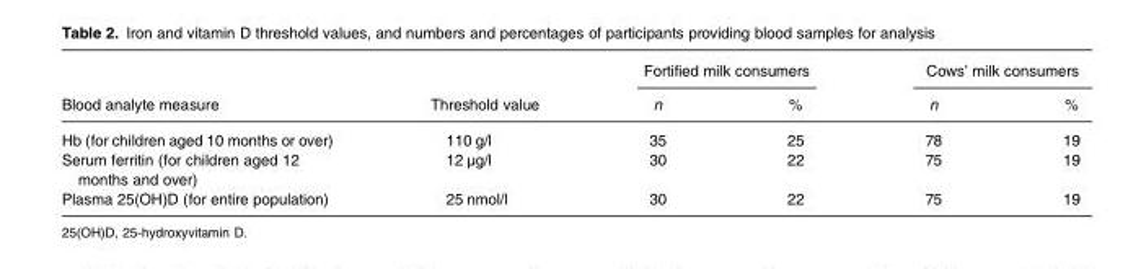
<table><thead><tr><td rowspan="2">Blood analyte measure</td><td rowspan="2">Threshold value</td><td colspan="2">Fortified milk consumers</td><td colspan="2">Cows’ milk consumers</td></tr><tr><td>n</td><td>%</td><td>n</td><td>%</td></tr></thead><tbody><tr><td>Hb (for children aged 10 months or over)</td><td>110 g/l</td><td>35</td><td>25</td><td>78</td><td>19</td></tr><tr><td>Serum ferritin (for children aged 12 months and over)</td><td>12 µg/l</td><td>30</td><td>22</td><td>75</td><td>19</td></tr><tr><td>Plasma 25(OH)D (for entire population)</td><td>25 nmol/l</td><td>30</td><td>22</td><td>75</td><td>19</td></tr></tbody></table>